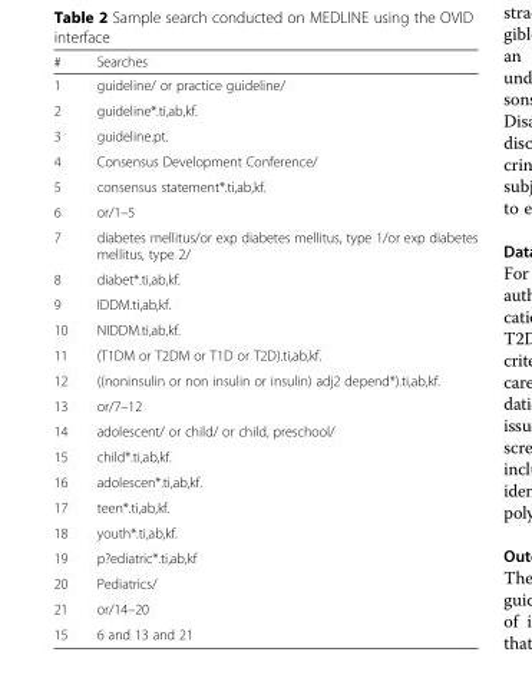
<table><thead><tr><td>#</td><td>Searches</td></tr></thead><tbody><tr><td>1</td><td>guideline/ or practice guideline/</td></tr><tr><td>2</td><td>guideline*.ti,ab,kf.</td></tr><tr><td>3</td><td>guideline.pt.</td></tr><tr><td>4</td><td>Consensus Development Conference/</td></tr><tr><td>5</td><td>consensus statement*.ti,ab,kf.</td></tr><tr><td>6</td><td>or/1–5</td></tr><tr><td>7</td><td>diabetes mellitus/or exp diabetes mellitus, type 1/or exp diabetes mellitus, type 2/</td></tr><tr><td>8</td><td>diabet*.ti,ab,kf.</td></tr><tr><td>9</td><td>IDDM.ti,ab,kf.</td></tr><tr><td>10</td><td>NIDDM.ti,ab,kf.</td></tr><tr><td>11</td><td>(T1DM or T2DM or T1D or T2D).ti,ab,kf.</td></tr><tr><td>12</td><td>((noninsulin or non insulin or insulin) adj2 depend*).ti,ab,kf.</td></tr><tr><td>13</td><td>or/7–12</td></tr><tr><td>14</td><td>adolescent/ or child/ or child, preschool/</td></tr><tr><td>15</td><td>child*.ti,ab,kf.</td></tr><tr><td>16</td><td>adolescen*.ti,ab,kf.</td></tr><tr><td>17</td><td>teen*.ti,ab,kf.</td></tr><tr><td>18</td><td>youth*.ti,ab,kf.</td></tr><tr><td>19</td><td>p?ediatric*.ti,ab,kf</td></tr><tr><td>20</td><td>Pediatrics/</td></tr><tr><td>21</td><td>or/14–20</td></tr><tr><td>15</td><td>6 and 13 and 21</td></tr></tbody></table>